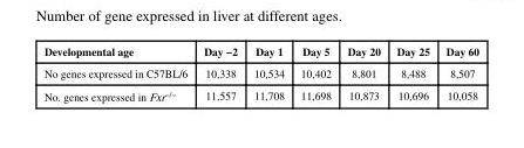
<table><thead><tr><td>Developmental age</td><td>Day −2</td><td>Day 1</td><td>Day 5</td><td>Day 20</td><td>Day 25</td><td>Day 60</td></tr></thead><tbody><tr><td>No genes expressed in C57BL/6</td><td>10,338</td><td>10,534</td><td>10,402</td><td>8,801</td><td>8,488</td><td>8,507</td></tr><tr><td>No. genes expressed in Fxr<sup>−/−</sup></td><td>11,557</td><td>11,708</td><td>11,698</td><td>10,873</td><td>10,696</td><td>10,058</td></tr></tbody></table>